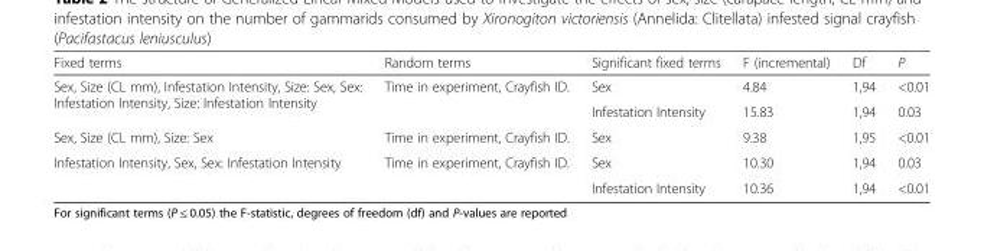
<table><thead><tr><td>Fixed terms</td><td>Random terms</td><td>Significant fixed terms</td><td>F (incremental)</td><td>Df</td><td>P</td></tr></thead><tbody><tr><td rowspan="2">Sex, Size (CL mm), Infestation Intensity, Size: Sex, Sex: Infestation Intensity, Size: Infestation Intensity</td><td rowspan="2">Time in experiment, Crayfish ID.</td><td>Sex</td><td>4.84</td><td>1,94</td><td>&lt;0.01</td></tr><tr><td>Infestation Intensity</td><td>15.83</td><td>1,94</td><td>0.03</td></tr><tr><td>Sex, Size (CL mm), Size: Sex</td><td>Time in experiment, Crayfish ID.</td><td>Sex</td><td>9.38</td><td>1,95</td><td>&lt;0.01</td></tr><tr><td rowspan="2">Infestation Intensity, Sex, Sex: Infestation Intensity</td><td rowspan="2">Time in experiment, Crayfish ID.</td><td>Sex</td><td>10.30</td><td>1,94</td><td>0.03</td></tr><tr><td>Infestation Intensity</td><td>10.36</td><td>1,94</td><td>&lt;0.01</td></tr></tbody></table>